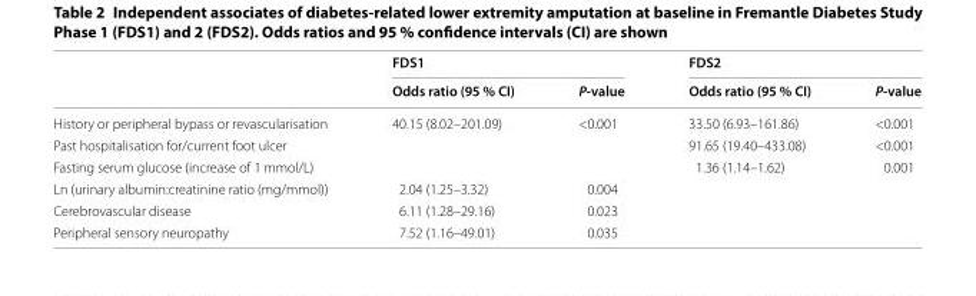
<table><thead><tr><td rowspan="2"></td><td colspan="2">FDS1</td><td colspan="2">FDS2</td></tr><tr><td>Odds ratio (95 % CI)</td><td>P-value</td><td>Odds ratio (95 % CI)</td><td>P-value</td></tr></thead><tbody><tr><td>History or peripheral bypass or revascularisation</td><td>40.15 (8.02–201.09)</td><td>&lt;0.001</td><td>33.50 (6.93–161.86)</td><td>&lt;0.001</td></tr><tr><td>Past hospitalisation for/current foot ulcer</td><td></td><td></td><td>91.65 (19.40–433.08)</td><td>&lt;0.001</td></tr><tr><td>Fasting serum glucose (increase of 1 mmol/L)</td><td></td><td></td><td>1.36 (1.14–1.62)</td><td>0.001</td></tr><tr><td>Ln (urinary albumin:creatinine ratio (mg/mmol))</td><td>2.04 (1.25–3.32)</td><td>0.004</td><td></td><td></td></tr><tr><td>Cerebrovascular disease</td><td>6.11 (1.28–29.16)</td><td>0.023</td><td></td><td></td></tr><tr><td>Peripheral sensory neuropathy</td><td>7.52 (1.16–49.01)</td><td>0.035</td><td></td><td></td></tr></tbody></table>